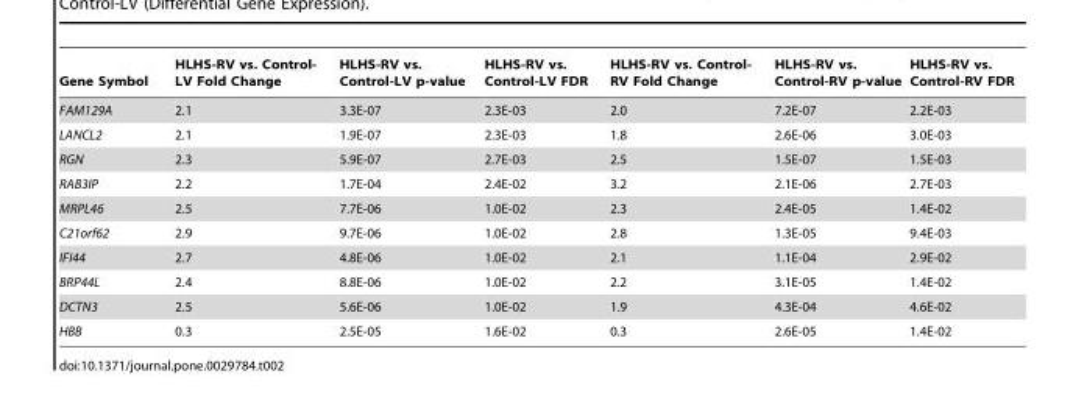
<table><thead><tr><td>Gene Symbol</td><td>HLHS-RV vs. Control- LV Fold Change</td><td>HLHS-RV vs. Control-LV p-value</td><td>HLHS-RV vs. Control-LV FDR</td><td>HLHS-RV vs. Control- RV Fold Change</td><td>HLHS-RV vs. Control-RV p-value</td><td>HLHS-RV vs. Control-RV FDR</td></tr></thead><tbody><tr><td>FAM129A</td><td>2.1</td><td>3.3E-07</td><td>2.3E-03</td><td>2.0</td><td>7.2E-07</td><td>2.2E-03</td></tr><tr><td>LANCL2</td><td>2.1</td><td>1.9E-07</td><td>2.3E-03</td><td>1.8</td><td>2.6E-06</td><td>3.0E-03</td></tr><tr><td>RGN</td><td>2.3</td><td>5.9E-07</td><td>2.7E-03</td><td>2.5</td><td>1.5E-07</td><td>1.5E-03</td></tr><tr><td>RAB3IP</td><td>2.2</td><td>1.7E-04</td><td>2.4E-02</td><td>3.2</td><td>2.1E-06</td><td>2.7E-03</td></tr><tr><td>MRPL46</td><td>2.5</td><td>7.7E-06</td><td>1.0E-02</td><td>2.3</td><td>2.4E-05</td><td>1.4E-02</td></tr><tr><td>C21orf62</td><td>2.9</td><td>9.7E-06</td><td>1.0E-02</td><td>2.8</td><td>1.3E-05</td><td>9.4E-03</td></tr><tr><td>IFI44</td><td>2.7</td><td>4.8E-06</td><td>1.0E-02</td><td>2.1</td><td>1.1E-04</td><td>2.9E-02</td></tr><tr><td>BRP44L</td><td>2.4</td><td>8.8E-06</td><td>1.0E-02</td><td>2.2</td><td>3.1E-05</td><td>1.4E-02</td></tr><tr><td>DCTN3</td><td>2.5</td><td>5.6E-06</td><td>1.0E-02</td><td>1.9</td><td>4.3E-04</td><td>4.6E-02</td></tr><tr><td>HBB</td><td>0.3</td><td>2.5E-05</td><td>1.6E-02</td><td>0.3</td><td>2.6E-05</td><td>1.4E-02</td></tr></tbody></table>